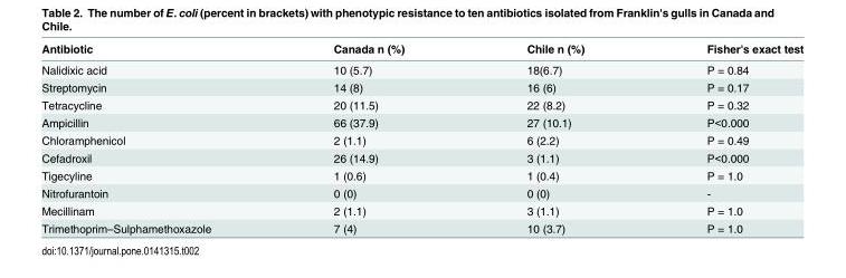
<table><thead><tr><td>Antibiotic</td><td>Canada n (%)</td><td>Chile n (%)</td><td>Fisher&#x27;s exact test</td></tr></thead><tbody><tr><td>Nalidixic acid</td><td>10 (5.7)</td><td>18(6.7)</td><td>P = 0.84</td></tr><tr><td>Streptomycin</td><td>14 (8)</td><td>16 (6)</td><td>P = 0.17</td></tr><tr><td>Tetracycline</td><td>20 (11.5)</td><td>22 (8.2)</td><td>P = 0.32</td></tr><tr><td>Ampicillin</td><td>66 (37.9)</td><td>27 (10.1)</td><td>P&lt;0.000</td></tr><tr><td>Chloramphenicol</td><td>2 (1.1)</td><td>6 (2.2)</td><td>P = 0.49</td></tr><tr><td>Cefadroxil</td><td>26 (14.9)</td><td>3 (1.1)</td><td>P&lt;0.000</td></tr><tr><td>Tigecyline</td><td>1 (0.6)</td><td>1 (0.4)</td><td>P = 1.0</td></tr><tr><td>Nitrofurantoin</td><td>0 (0)</td><td>0 (0)</td><td>-</td></tr><tr><td>Mecillinam</td><td>2 (1.1)</td><td>3 (1.1)</td><td>P = 1.0</td></tr><tr><td>Trimethoprim–Sulphamethoxazole</td><td>7 (4)</td><td>10 (3.7)</td><td>P = 1.0</td></tr></tbody></table>